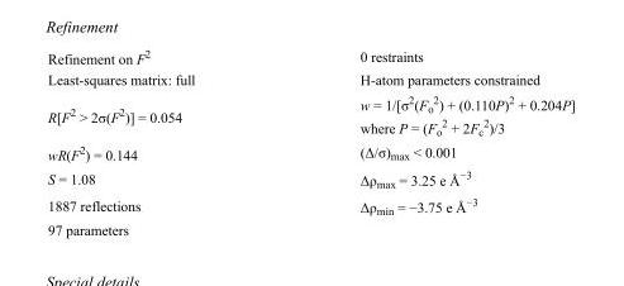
<table><tbody><tr><td>Refinement on F<sup>2</sup></td><td>0 restraints</td></tr><tr><td>Least-squares matrix: full</td><td>H-atom parameters constrained</td></tr><tr><td>R[F<sup>2</sup> &gt; 2σ(F<sup>2</sup>)] = 0.054</td><td>w = 1/[σ<sup>2</sup>(F<sub>o</sub> <sup>2</sup>) + (0.110P)<sup>2</sup> + 0.204P] where P = (F<sub>o</sub> <sup>2</sup> + 2F<sub>c</sub> <sup>2</sup>)/3</td></tr><tr><td>wR(F<sup>2</sup>) = 0.144</td><td>(Δ/σ)<sub>max</sub> &lt; 0.001</td></tr><tr><td>S = 1.08</td><td>Δρ<sub>max</sub> = 3.25 e Å<sup>−3</sup></td></tr><tr><td>1887 reflections</td><td>Δρ<sub>min</sub> = −3.75 e Å<sup>−3</sup></td></tr><tr><td>97 parameters</td><td></td></tr></tbody></table>